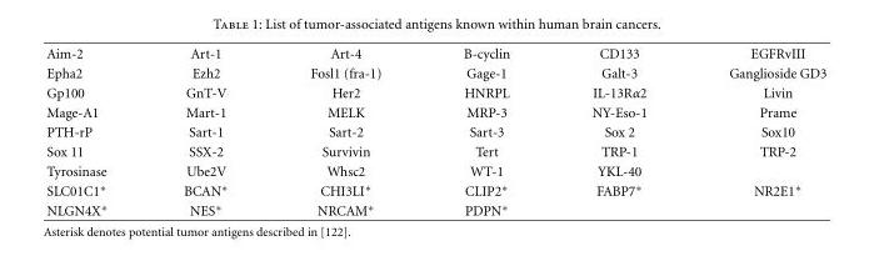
<table><tbody><tr><td>Aim-2</td><td>Art-1</td><td>Art-4</td><td>B-cyclin</td><td>CD133</td><td>EGFRvIII</td></tr><tr><td>Epha2</td><td>Ezh2</td><td>Fosl1 (fra-1)</td><td>Gage-1</td><td>Galt-3</td><td>Ganglioside GD3</td></tr><tr><td>Gp100</td><td>GnT-V</td><td>Her2</td><td>HNRPL</td><td>IL-13Rα2</td><td>Livin</td></tr><tr><td>Mage-A1</td><td>Mart-1</td><td>MELK</td><td>MRP-3</td><td>NY-Eso-1</td><td>Prame</td></tr><tr><td>PTH-rP</td><td>Sart-1</td><td>Sart-2</td><td>Sart-3</td><td>Sox 2</td><td>Sox10</td></tr><tr><td>Sox 11</td><td>SSX-2</td><td>Survivin</td><td>Tert</td><td>TRP-1</td><td>TRP-2</td></tr><tr><td>Tyrosinase</td><td>Ube2V</td><td>Whsc2</td><td>WT-1</td><td>YKL-40</td><td></td></tr><tr><td>SLC01C1∗</td><td>BCAN∗</td><td>CHI3LI∗</td><td>CLIP2∗</td><td>FABP7∗</td><td>NR2E1∗</td></tr><tr><td>NLGN4X∗</td><td>NES∗</td><td>NRCAM∗</td><td>PDPN∗</td><td></td><td></td></tr></tbody></table>